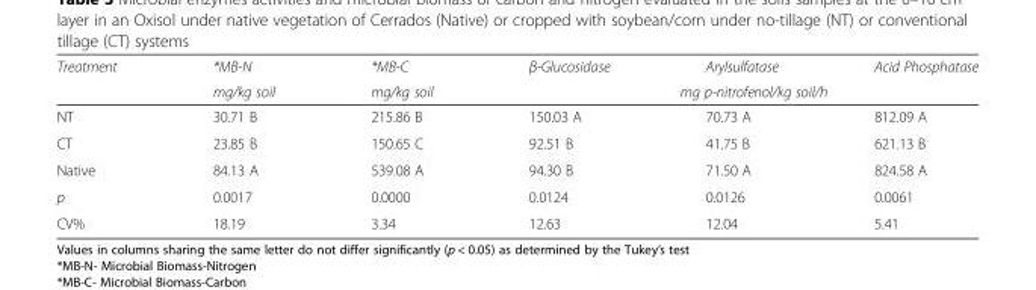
<table><thead><tr><td rowspan="2">Treatment</td><td rowspan="2">*MB-N mg/kg soil</td><td rowspan="2">*MB-C mg/kg soil</td><td>β-Glucosidase</td><td>Arylsulfatase</td><td>Acid Phosphatase</td></tr><tr><td colspan="3">mg p-nitrofenol/kg soil/h</td></tr></thead><tbody><tr><td>NT</td><td>30.71 B</td><td>215.86 B</td><td>150.03 A</td><td>70.73 A</td><td>812.09 A</td></tr><tr><td>CT</td><td>23.85 B</td><td>150.65 C</td><td>92.51 B</td><td>41.75 B</td><td>621.13 B</td></tr><tr><td>Native</td><td>84.13 A</td><td>539.08 A</td><td>94.30 B</td><td>71.50 A</td><td>824.58 A</td></tr><tr><td>p</td><td>0.0017</td><td>0.0000</td><td>0.0124</td><td>0.0126</td><td>0.0061</td></tr><tr><td>CV%</td><td>18.19</td><td>3.34</td><td>12.63</td><td>12.04</td><td>5.41</td></tr></tbody></table>